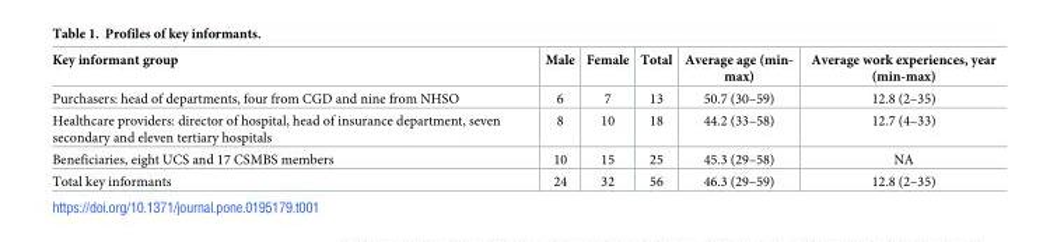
<table><thead><tr><td>Key informant group</td><td>Male</td><td>Female</td><td>Total</td><td>Average age (min- max)</td><td>Average work experiences, year (min-max)</td></tr></thead><tbody><tr><td>Purchasers: head of departments, four from CGD and nine from NHSO</td><td>6</td><td>7</td><td>13</td><td>50.7 (30–59)</td><td>12.8 (2–35)</td></tr><tr><td>Healthcare providers: director of hospital, head of insurance department, seven secondary and eleven tertiary hospitals</td><td>8</td><td>10</td><td>18</td><td>44.2 (33–58)</td><td>12.7 (4–33)</td></tr><tr><td>Beneficiaries, eight UCS and 17 CSMBS members</td><td>10</td><td>15</td><td>25</td><td>45.3 (29–58)</td><td>NA</td></tr><tr><td>Total key informants</td><td>24</td><td>32</td><td>56</td><td>46.3 (29–59)</td><td>12.8 (2–35)</td></tr></tbody></table>